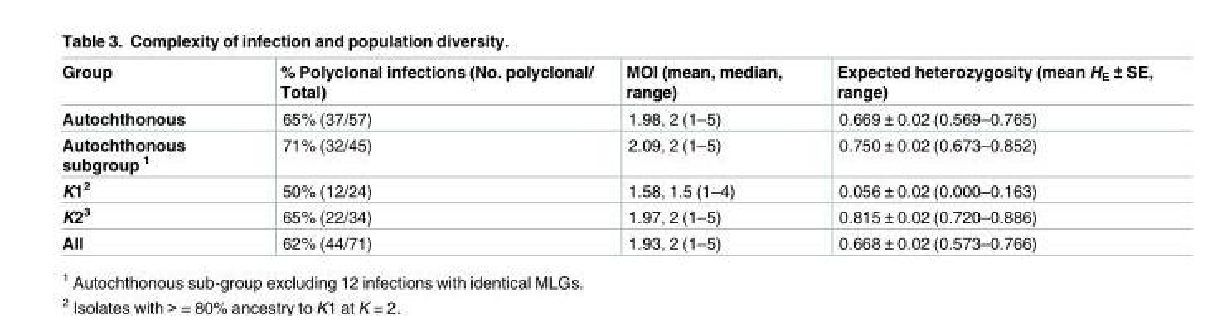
<table><thead><tr><td>Group</td><td>% Polyclonal infections (No. polyclonal/ Total)</td><td>MOI (mean, median, range)</td><td>Expected heterozygosity (mean H<sub>E</sub> ± SE, range)</td></tr></thead><tbody><tr><td>Autochthonous</td><td>65% (37/57)</td><td>1.98, 2 (1–5)</td><td>0.669 ± 0.02 (0.569–0.765)</td></tr><tr><td>Autochthonous subgroup <sup>1</sup></td><td>71% (32/45)</td><td>2.09, 2 (1–5)</td><td>0.750 ± 0.02 (0.673–0.852)</td></tr><tr><td>K1<sup>2</sup></td><td>50% (12/24)</td><td>1.58, 1.5 (1–4)</td><td>0.056 ± 0.02 (0.000–0.163)</td></tr><tr><td>K2<sup>3</sup></td><td>65% (22/34)</td><td>1.97, 2 (1–5)</td><td>0.815 ± 0.02 (0.720–0.886)</td></tr><tr><td>All</td><td>62% (44/71)</td><td>1.93, 2 (1–5)</td><td>0.668 ± 0.02 (0.573–0.766)</td></tr></tbody></table>